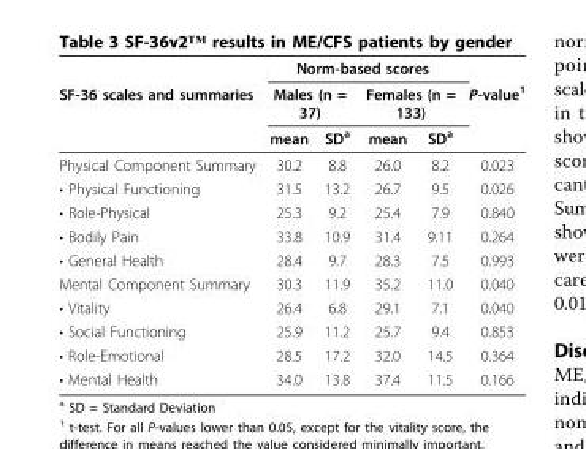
<table><thead><tr><td rowspan="3">SF-36 scales and summaries</td><td colspan="4">Norm-based scores</td><td rowspan="3">P-value<sup>1</sup></td></tr><tr><td colspan="2">Males (n = 37)</td><td colspan="2">Females (n = 133)</td></tr><tr><td>mean</td><td>SD<sup>a</sup></td><td>mean</td><td>SD<sup>a</sup></td></tr></thead><tbody><tr><td>Physical Component Summary</td><td>30.2</td><td>8.8</td><td>26.0</td><td>8.2</td><td>0.023</td></tr><tr><td>• Physical Functioning</td><td>31.5</td><td>13.2</td><td>26.7</td><td>9.5</td><td>0.026</td></tr><tr><td>• Role-Physical</td><td>25.3</td><td>9.2</td><td>25.4</td><td>7.9</td><td>0.840</td></tr><tr><td>• Bodily Pain</td><td>33.8</td><td>10.9</td><td>31.4</td><td>9.11</td><td>0.264</td></tr><tr><td>• General Health</td><td>28.4</td><td>9.7</td><td>28.3</td><td>7.5</td><td>0.993</td></tr><tr><td>Mental Component Summary</td><td>30.3</td><td>11.9</td><td>35.2</td><td>11.0</td><td>0.040</td></tr><tr><td>• Vitality</td><td>26.4</td><td>6.8</td><td>29.1</td><td>7.1</td><td>0.040</td></tr><tr><td>• Social Functioning</td><td>25.9</td><td>11.2</td><td>25.7</td><td>9.4</td><td>0.853</td></tr><tr><td>• Role-Emotional</td><td>28.5</td><td>17.2</td><td>32.0</td><td>14.5</td><td>0.364</td></tr><tr><td>• Mental Health</td><td>34.0</td><td>13.8</td><td>37.4</td><td>11.5</td><td>0.166</td></tr></tbody></table>